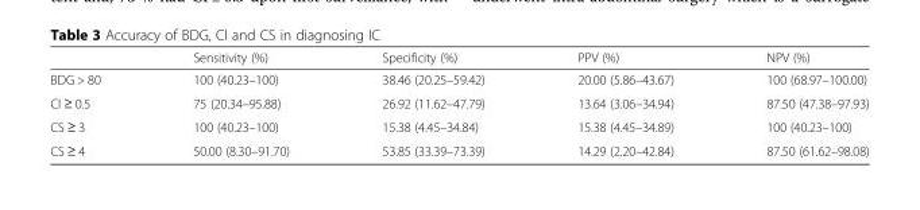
<table><thead><tr><td></td><td>Sensitivity (%)</td><td>Specificity (%)</td><td>PPV (%)</td><td>NPV (%)</td></tr></thead><tbody><tr><td>BDG &gt; 80</td><td>100 (40.23–100)</td><td>38.46 (20.25–59.42)</td><td>20.00 (5.86–43.67)</td><td>100 (68.97–100.00)</td></tr><tr><td>CI ≥ 0.5</td><td>75 (20.34–95.88)</td><td>26.92 (11.62–47.79)</td><td>13.64 (3.06–34.94)</td><td>87.50 (47.38–97.93)</td></tr><tr><td>CS ≥ 3</td><td>100 (40.23–100)</td><td>15.38 (4.45–34.84)</td><td>15.38 (4.45–34.89)</td><td>100 (40.23–100)</td></tr><tr><td>CS ≥ 4</td><td>50.00 (8.30–91.70)</td><td>53.85 (33.39–73.39)</td><td>14.29 (2.20–42.84)</td><td>87.50 (61.62–98.08)</td></tr></tbody></table>